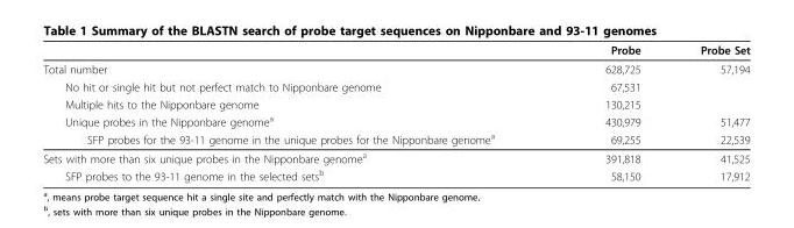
<table><thead><tr><td></td><td>Probe</td><td>Probe Set</td></tr></thead><tbody><tr><td>Total number</td><td>628,725</td><td>57,194</td></tr><tr><td>No hit or single hit but not perfect match to Nipponbare genome</td><td>67,531</td><td></td></tr><tr><td>Multiple hits to the Nipponbare genome</td><td>130,215</td><td></td></tr><tr><td>Unique probes in the Nipponbare genome<sup>a</sup></td><td>430,979</td><td>51,477</td></tr><tr><td>SFP probes for the 93-11 genome in the unique probes for the Nipponbare genome<sup>a</sup></td><td>69,255</td><td>22,539</td></tr><tr><td>Sets with more than six unique probes in the Nipponbare genome<sup>a</sup></td><td>391,818</td><td>41,525</td></tr><tr><td>SFP probes to the 93-11 genome in the selected sets<sup>b</sup></td><td>58,150</td><td>17,912</td></tr></tbody></table>